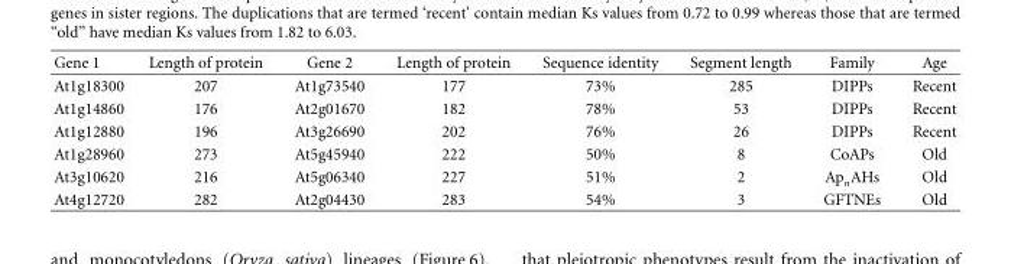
<table><thead><tr><td>Gene 1</td><td>Length of protein</td><td>Gene 2</td><td>Length of protein</td><td>Sequence identity</td><td>Segment length</td><td>Family</td><td>Age</td></tr></thead><tbody><tr><td>At1g18300</td><td>207</td><td>At1g73540</td><td>177</td><td>73%</td><td>285</td><td>DIPPs</td><td>Recent</td></tr><tr><td>At1g14860</td><td>176</td><td>At2g01670</td><td>182</td><td>78%</td><td>53</td><td>DIPPs</td><td>Recent</td></tr><tr><td>At1g12880</td><td>196</td><td>At3g26690</td><td>202</td><td>76%</td><td>26</td><td>DIPPs</td><td>Recent</td></tr><tr><td>At1g28960</td><td>273</td><td>At5g45940</td><td>222</td><td>50%</td><td>8</td><td>CoAPs</td><td>Old</td></tr><tr><td>At3g10620</td><td>216</td><td>At5g06340</td><td>227</td><td>51%</td><td>2</td><td>Ap<sub>n</sub>AHs</td><td>Old</td></tr><tr><td>At4g12720</td><td>282</td><td>At2g04430</td><td>283</td><td>54%</td><td>3</td><td>GFTNEs</td><td>Old</td></tr></tbody></table>